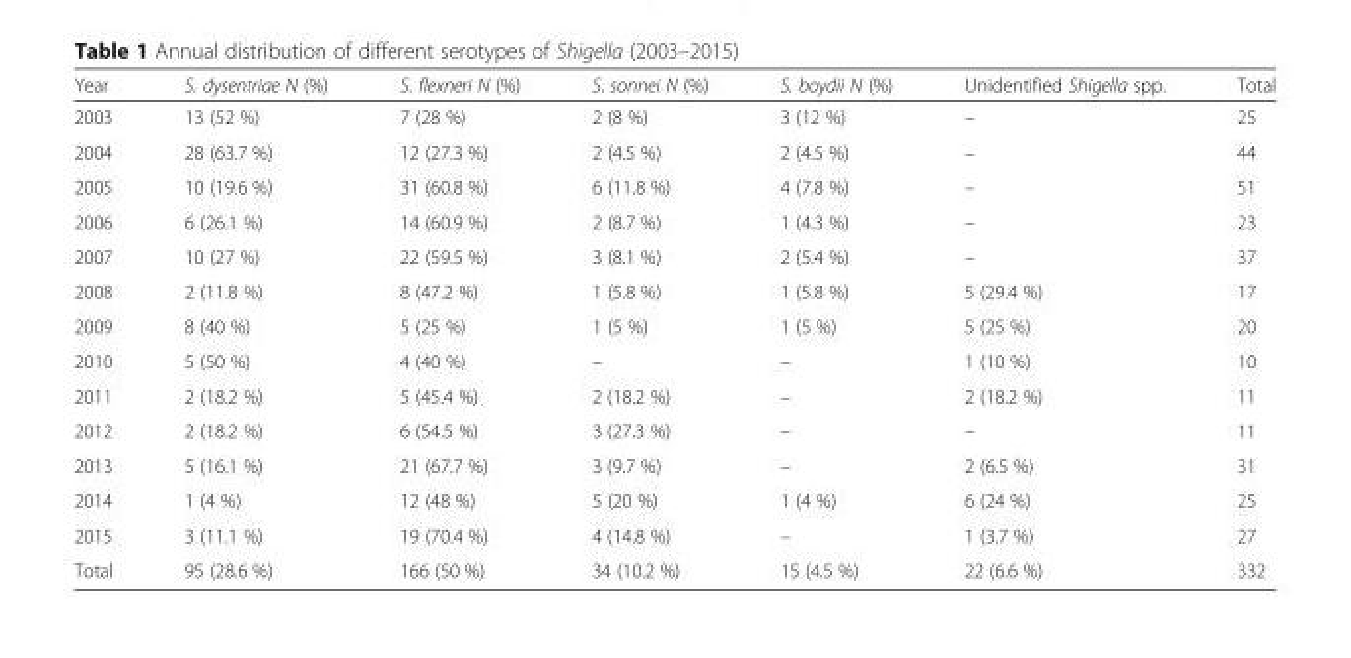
<table><thead><tr><td>Year</td><td>S. dysentriae N (%)</td><td>S. flexneri N (%)</td><td>S. sonnei N (%)</td><td>S. boydii N (%)</td><td>Unidentified Shigella spp.</td><td>Total</td></tr></thead><tbody><tr><td>2003</td><td>13 (52 %)</td><td>7 (28 %)</td><td>2 (8 %)</td><td>3 (12 %)</td><td>–</td><td>25</td></tr><tr><td>2004</td><td>28 (63.7 %)</td><td>12 (27.3 %)</td><td>2 (4.5 %)</td><td>2 (4.5 %)</td><td>–</td><td>44</td></tr><tr><td>2005</td><td>10 (19.6 %)</td><td>31 (60.8 %)</td><td>6 (11.8 %)</td><td>4 (7.8 %)</td><td>–</td><td>51</td></tr><tr><td>2006</td><td>6 (26.1 %)</td><td>14 (60.9 %)</td><td>2 (8.7 %)</td><td>1 (4.3 %)</td><td>–</td><td>23</td></tr><tr><td>2007</td><td>10 (27 %)</td><td>22 (59.5 %)</td><td>3 (8.1 %)</td><td>2 (5.4 %)</td><td>–</td><td>37</td></tr><tr><td>2008</td><td>2 (11.8 %)</td><td>8 (47.2 %)</td><td>1 (5.8 %)</td><td>1 (5.8 %)</td><td>5 (29.4 %)</td><td>17</td></tr><tr><td>2009</td><td>8 (40 %)</td><td>5 (25 %)</td><td>1 (5 %)</td><td>1 (5 %)</td><td>5 (25 %)</td><td>20</td></tr><tr><td>2010</td><td>5 (50 %)</td><td>4 (40 %)</td><td>–</td><td>–</td><td>1 (10 %)</td><td>10</td></tr><tr><td>2011</td><td>2 (18.2 %)</td><td>5 (45.4 %)</td><td>2 (18.2 %)</td><td>–</td><td>2 (18.2 %)</td><td>11</td></tr><tr><td>2012</td><td>2 (18.2 %)</td><td>6 (54.5 %)</td><td>3 (27.3 %)</td><td>–</td><td>–</td><td>11</td></tr><tr><td>2013</td><td>5 (16.1 %)</td><td>21 (67.7 %)</td><td>3 (9.7 %)</td><td>–</td><td>2 (6.5 %)</td><td>31</td></tr><tr><td>2014</td><td>1 (4 %)</td><td>12 (48 %)</td><td>5 (20 %)</td><td>1 (4 %)</td><td>6 (24 %)</td><td>25</td></tr><tr><td>2015</td><td>3 (11.1 %)</td><td>19 (70.4 %)</td><td>4 (14.8 %)</td><td>–</td><td>1 (3.7 %)</td><td>27</td></tr><tr><td>Total</td><td>95 (28.6 %)</td><td>166 (50 %)</td><td>34 (10.2 %)</td><td>15 (4.5 %)</td><td>22 (6.6 %)</td><td>332</td></tr></tbody></table>